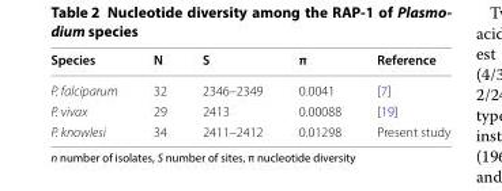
<table><thead><tr><td>Species</td><td>N</td><td>S</td><td>π</td><td>Reference</td></tr></thead><tbody><tr><td>P. falciparum</td><td>32</td><td>2346–2349</td><td>0.0041</td><td>[7]</td></tr><tr><td>P. vivax</td><td>29</td><td>2413</td><td>0.00088</td><td>[19]</td></tr><tr><td>P. knowlesi</td><td>34</td><td>2411–2412</td><td>0.01298</td><td>Present study</td></tr></tbody></table>